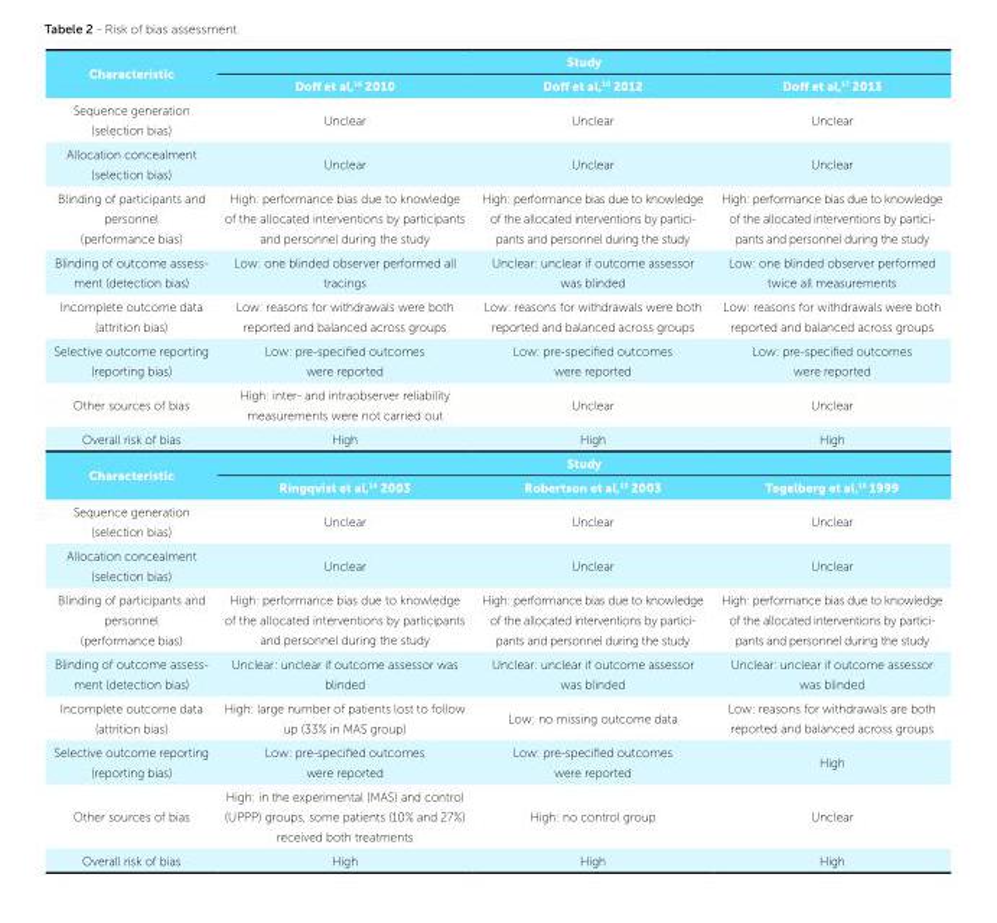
<table><tbody><tr><td rowspan="2">Characteristic</td><td colspan="3">Study</td></tr><tr><td>Doff et al,<sup>16</sup> 2010</td><td>Doff et al,<sup>10</sup> 2012</td><td>Doff et al,<sup>17</sup> 2013</td></tr><tr><td>Sequence generation (selection bias)</td><td>Unclear</td><td>Unclear</td><td>Unclear</td></tr><tr><td>Allocation concealment (selection bias)</td><td>Unclear</td><td>Unclear</td><td>Unclear</td></tr><tr><td>Blinding of participants and personnel (performance bias)</td><td>High: performance bias due to knowledge of the allocated interventions by participants and personnel during the study</td><td>High: performance bias due to knowledge of the allocated interventions by partici- pants and personnel during the study</td><td>High: performance bias due to knowledge of the allocated interventions by partici- pants and personnel during the study</td></tr><tr><td>Blinding of outcome assess- ment (detection bias)</td><td>Low: one blinded observer performed all tracings</td><td>Unclear: unclear if outcome assessor was blinded</td><td>Low: one blinded observer performed twice all measurements</td></tr><tr><td>Incomplete outcome data (attrition bias)</td><td>Low: reasons for withdrawals were both reported and balanced across groups</td><td>Low: reasons for withdrawals were both reported and balanced across groups</td><td>Low: reasons for withdrawals were both reported and balanced across groups</td></tr><tr><td>Selective outcome reporting (reporting bias)</td><td>Low: pre-specified outcomes were reported</td><td>Low: pre-specified outcomes were reported</td><td>Low: pre-specified outcomes were reported</td></tr><tr><td>Other sources of bias</td><td>High: inter- and intraobserver reliability measurements were not carried out</td><td>Unclear</td><td>Unclear</td></tr><tr><td>Overall risk of bias</td><td>High</td><td>High</td><td>High</td></tr><tr><td rowspan="2">Characteristic</td><td colspan="3">Study</td></tr><tr><td>Ringqvist et al,<sup>14</sup> 2003</td><td>Robertson et al,<sup>13</sup> 2003</td><td>Tegelberg et al,<sup>15</sup> 1999</td></tr><tr><td>Sequence generation (selection bias)</td><td>Unclear</td><td>Unclear</td><td>Unclear</td></tr><tr><td>Allocation concealment (selection bias)</td><td>Unclear</td><td>Unclear</td><td>Unclear</td></tr><tr><td>Blinding of participants and personnel (performance bias)</td><td>High: performance bias due to knowledge of the allocated interventions by participants and personnel during the study</td><td>High: performance bias due to knowledge of the allocated interventions by partici- pants and personnel during the study</td><td>High: performance bias due to knowledge of the allocated interventions by partici- pants and personnel during the study</td></tr><tr><td>Blinding of outcome assess- ment (detection bias)</td><td>Unclear: unclear if outcome assessor was blinded</td><td>Unclear: unclear if outcome assessor was blinded</td><td>Unclear: unclear if outcome assessor was blinded</td></tr><tr><td>Incomplete outcome data (attrition bias)</td><td>High: large number of patients lost to follow up (33% in MAS group)</td><td>Low: no missing outcome data</td><td>Low: reasons for withdrawals are both reported and balanced across groups</td></tr><tr><td>Selective outcome reporting (reporting bias)</td><td>Low: pre-specified outcomes were reported</td><td>Low: pre-specified outcomes were reported</td><td>High</td></tr><tr><td>Other sources of bias</td><td>High: in the experimental (MAS) and control (UPPP) groups, some patients (10% and 27%) received both treatments</td><td>High: no control group</td><td>Unclear</td></tr><tr><td>Overall risk of bias</td><td>High</td><td>High</td><td>High</td></tr></tbody></table>